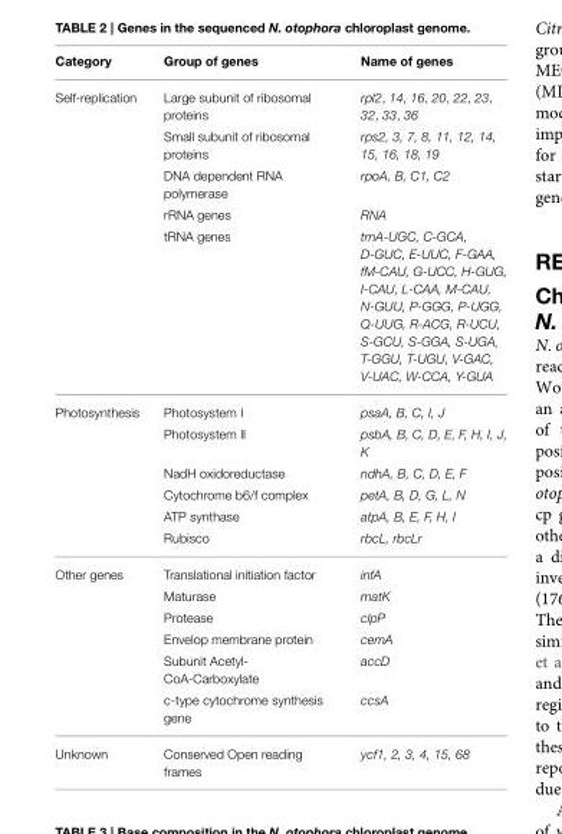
<table><thead><tr><td>Category</td><td>Group of genes</td><td>Name of genes</td></tr></thead><tbody><tr><td rowspan="5">Self-replication</td><td>Large subunit of ribosomal proteins</td><td>rpl2, 14, 16, 20, 22, 23, 32, 33, 36</td></tr><tr><td>Small subunit of ribosomal proteins</td><td>rps2, 3, 7, 8, 11, 12, 14, 15, 16, 18, 19</td></tr><tr><td>DNA dependent RNA polymerase</td><td>rpoA, B, C1, C2</td></tr><tr><td>rRNA genes</td><td>RNA</td></tr><tr><td>tRNA genes</td><td>trnA-UGC, C-GCA, D-GUC, E-UUC, F-GAA, fM-CAU, G-UCC, H-GUG, I-CAU, L-CAA, M-CAU, N-GUU, P-GGG, P-UGG, Q-UUG, R-ACG, R-UCU, S-GCU, S-GGA, S-UGA, T-GGU, T-UGU, V-GAC, V-UAC, W-CCA, Y-GUA</td></tr><tr><td rowspan="6">Photosynthesis</td><td>Photosystem I</td><td>psaA, B, C, I, J</td></tr><tr><td>Photosystem II</td><td>psbA, B, C, D, E, F, H, I, J, K</td></tr><tr><td>NadH oxidoreductase</td><td>ndhA, B, C, D, E, F</td></tr><tr><td>Cytochrome b6/f complex</td><td>petA, B, D, G, L, N</td></tr><tr><td>ATP synthase</td><td>atpA, B, E, F, H, I</td></tr><tr><td>Rubisco</td><td>rbcL, rbcLr</td></tr><tr><td rowspan="6">Other genes</td><td>Translational initiation factor</td><td>infA</td></tr><tr><td>Maturase</td><td>matK</td></tr><tr><td>Protease</td><td>clpP</td></tr><tr><td>Envelop membrane protein</td><td>cemA</td></tr><tr><td>Subunit Acetyl- CoA-Carboxylate</td><td>accD</td></tr><tr><td>c-type cytochrome synthesis gene</td><td>ccsA</td></tr><tr><td>Unknown</td><td>Conserved Open reading frames</td><td>ycf1, 2, 3, 4, 15, 68</td></tr></tbody></table>